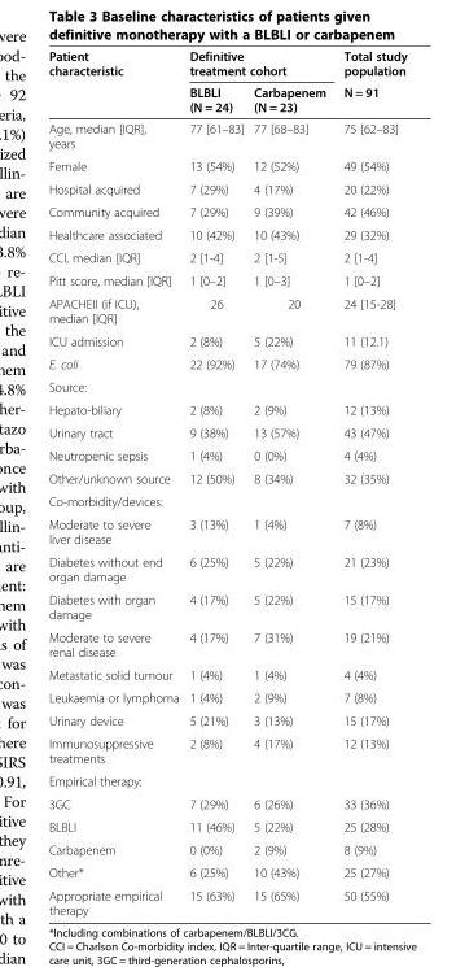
<table><thead><tr><td rowspan="2">Patient characteristic</td><td colspan="2">Definitive treatment cohort</td><td rowspan="2">Total study population N = 91</td></tr><tr><td>BLBLI (N = 24)</td><td>Carbapenem (N = 23)</td></tr></thead><tbody><tr><td>Age, median [IQR], years</td><td>77 [61–83]</td><td>77 [68–83]</td><td>75 [62–83]</td></tr><tr><td>Female</td><td>13 (54%)</td><td>12 (52%)</td><td>49 (54%)</td></tr><tr><td>Hospital acquired</td><td>7 (29%)</td><td>4 (17%)</td><td>20 (22%)</td></tr><tr><td>Community acquired</td><td>7 (29%)</td><td>9 (39%)</td><td>42 (46%)</td></tr><tr><td>Healthcare associated</td><td>10 (42%)</td><td>10 (43%)</td><td>29 (32%)</td></tr><tr><td>CCI, median [IQR]</td><td>2 [1-4]</td><td>2 [1-5]</td><td>2 [1-4]</td></tr><tr><td>Pitt score, median [IQR]</td><td>1 [0–2]</td><td>1 [0–3]</td><td>1 [0–2]</td></tr><tr><td>APACHEII (if ICU), median [IQR]</td><td>26</td><td>20</td><td>24 [15-28]</td></tr><tr><td>ICU admission</td><td>2 (8%)</td><td>5 (22%)</td><td>11 (12.1)</td></tr><tr><td>E. coli</td><td>22 (92%)</td><td>17 (74%)</td><td>79 (87%)</td></tr><tr><td colspan="4">Source:</td></tr><tr><td>Hepato-biliary</td><td>2 (8%)</td><td>2 (9%)</td><td>12 (13%)</td></tr><tr><td>Urinary tract</td><td>9 (38%)</td><td>13 (57%)</td><td>43 (47%)</td></tr><tr><td>Neutropenic sepsis</td><td>1 (4%)</td><td>0 (0%)</td><td>4 (4%)</td></tr><tr><td>Other/unknown source</td><td>12 (50%)</td><td>8 (34%)</td><td>32 (35%)</td></tr><tr><td colspan="4">Co-morbidity/devices:</td></tr><tr><td>Moderate to severe liver disease</td><td>3 (13%)</td><td>1 (4%)</td><td>7 (8%)</td></tr><tr><td>Diabetes without end organ damage</td><td>6 (25%)</td><td>5 (22%)</td><td>21 (23%)</td></tr><tr><td>Diabetes with organ damage</td><td>4 (17%)</td><td>5 (22%)</td><td>15 (17%)</td></tr><tr><td>Moderate to severe renal disease</td><td>4 (17%)</td><td>7 (31%)</td><td>19 (21%)</td></tr><tr><td>Metastatic solid tumour</td><td>1 (4%)</td><td>1 (4%)</td><td>4 (4%)</td></tr><tr><td>Leukaemia or lymphoma</td><td>1 (4%)</td><td>2 (9%)</td><td>7 (8%)</td></tr><tr><td>Urinary device</td><td>5 (21%)</td><td>3 (13%)</td><td>15 (17%)</td></tr><tr><td>Immunosuppressive treatments</td><td>2 (8%)</td><td>4 (17%)</td><td>12 (13%)</td></tr><tr><td colspan="4">Empirical therapy:</td></tr><tr><td>3GC</td><td>7 (29%)</td><td>6 (26%)</td><td>33 (36%)</td></tr><tr><td>BLBLI</td><td>11 (46%)</td><td>5 (22%)</td><td>25 (28%)</td></tr><tr><td>Carbapenem</td><td>0 (0%)</td><td>2 (9%)</td><td>8 (9%)</td></tr><tr><td>Other*</td><td>6 (25%)</td><td>10 (43%)</td><td>25 (27%)</td></tr><tr><td>Appropriate empirical therapy</td><td>15 (63%)</td><td>15 (65%)</td><td>50 (55%)</td></tr></tbody></table>